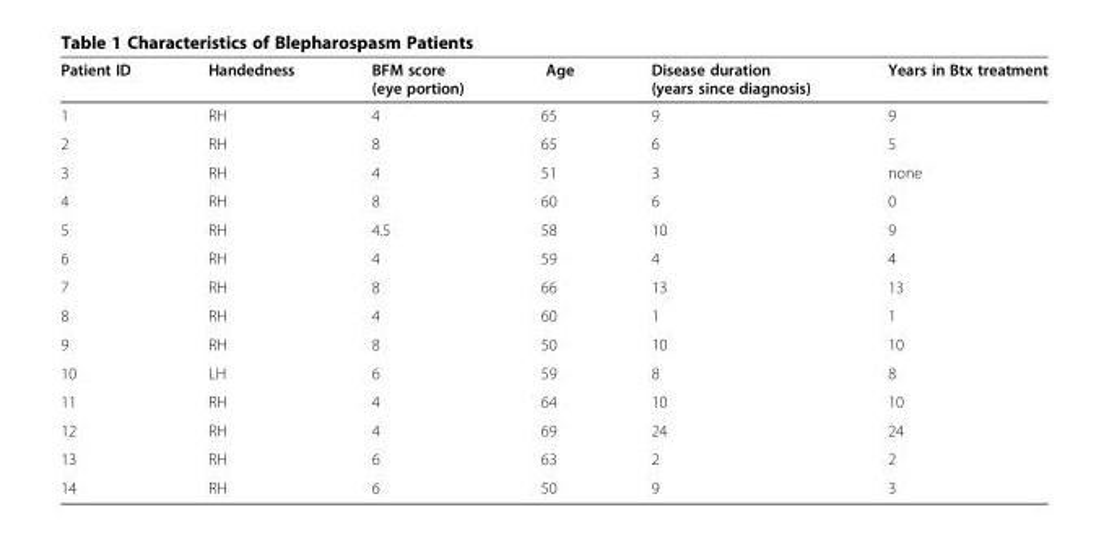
<table><thead><tr><td>Patient ID</td><td>Handedness</td><td>BFM score (eye portion)</td><td>Age</td><td>Disease duration (years since diagnosis)</td><td>Years in Btx treatment</td></tr></thead><tbody><tr><td>1</td><td>RH</td><td>4</td><td>65</td><td>9</td><td>9</td></tr><tr><td>2</td><td>RH</td><td>8</td><td>65</td><td>6</td><td>5</td></tr><tr><td>3</td><td>RH</td><td>4</td><td>51</td><td>3</td><td>none</td></tr><tr><td>4</td><td>RH</td><td>8</td><td>60</td><td>6</td><td>0</td></tr><tr><td>5</td><td>RH</td><td>4.5</td><td>58</td><td>10</td><td>9</td></tr><tr><td>6</td><td>RH</td><td>4</td><td>59</td><td>4</td><td>4</td></tr><tr><td>7</td><td>RH</td><td>8</td><td>66</td><td>13</td><td>13</td></tr><tr><td>8</td><td>RH</td><td>4</td><td>60</td><td>1</td><td>1</td></tr><tr><td>9</td><td>RH</td><td>8</td><td>50</td><td>10</td><td>10</td></tr><tr><td>10</td><td>LH</td><td>6</td><td>59</td><td>8</td><td>8</td></tr><tr><td>11</td><td>RH</td><td>4</td><td>64</td><td>10</td><td>10</td></tr><tr><td>12</td><td>RH</td><td>4</td><td>69</td><td>24</td><td>24</td></tr><tr><td>13</td><td>RH</td><td>6</td><td>63</td><td>2</td><td>2</td></tr><tr><td>14</td><td>RH</td><td>6</td><td>50</td><td>9</td><td>3</td></tr></tbody></table>